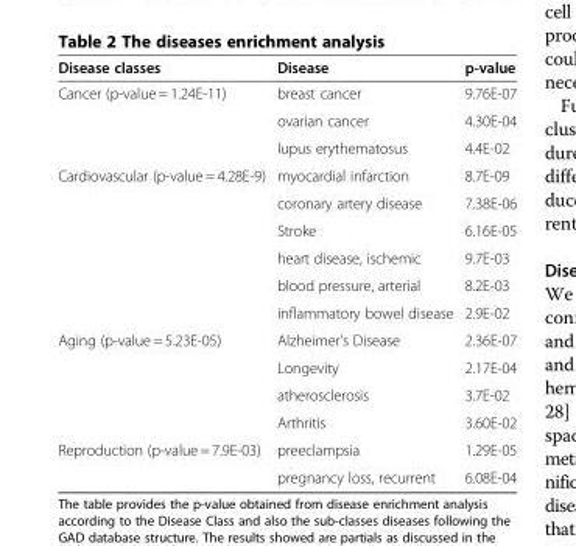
<table><thead><tr><td>Disease classes</td><td>Disease</td><td>p-value</td></tr></thead><tbody><tr><td rowspan="3">Cancer (p-value = 1.24E-11)</td><td>breast cancer</td><td>9.76E-07</td></tr><tr><td>ovarian cancer</td><td>4.30E-04</td></tr><tr><td>lupus erythematosus</td><td>4.4E-02</td></tr><tr><td rowspan="6">Cardiovascular (p-value = 4.28E-9)</td><td>myocardial infarction</td><td>8.7E-09</td></tr><tr><td>coronary artery disease</td><td>7.38E-06</td></tr><tr><td>Stroke</td><td>6.16E-05</td></tr><tr><td>heart disease, ischemic</td><td>9.7E-03</td></tr><tr><td>blood pressure, arterial</td><td>8.2E-03</td></tr><tr><td>inflammatory bowel disease</td><td>2.9E-02</td></tr><tr><td rowspan="4">Aging (p-value = 5.23E-05)</td><td>Alzheimer&#x27;s Disease</td><td>2.36E-07</td></tr><tr><td>Longevity</td><td>2.17E-04</td></tr><tr><td>atherosclerosis</td><td>3.7E-02</td></tr><tr><td>Arthritis</td><td>3.60E-02</td></tr><tr><td rowspan="2">Reproduction (p-value = 7.9E-03)</td><td>preeclampsia</td><td>1.29E-05</td></tr><tr><td>pregnancy loss, recurrent</td><td>6.08E-04</td></tr></tbody></table>